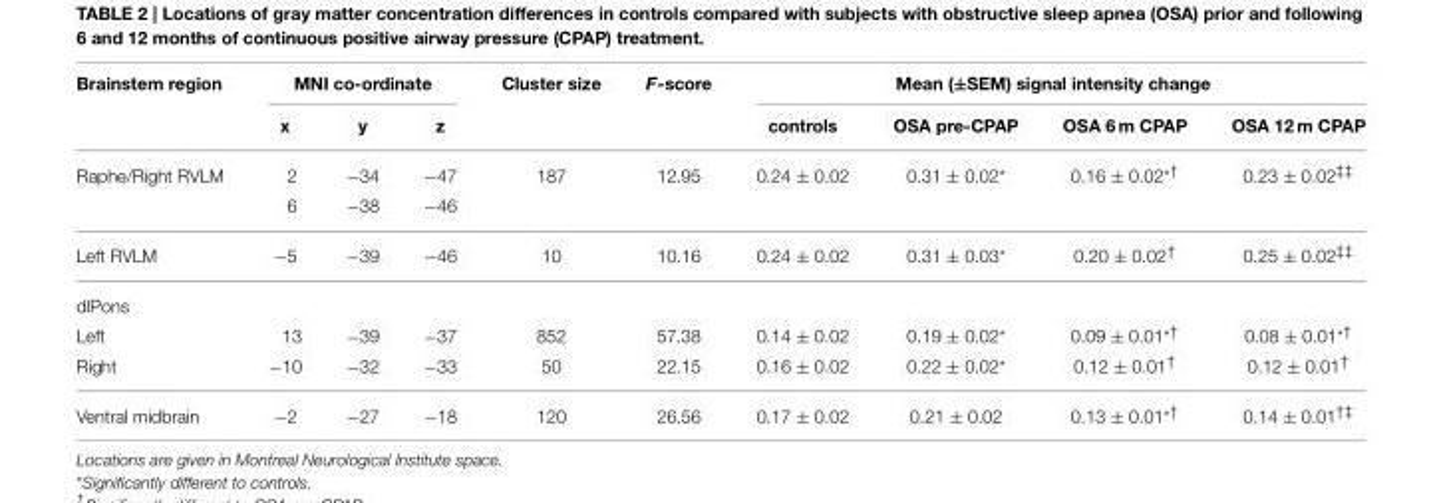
<table><thead><tr><td rowspan="2">Brainstem region</td><td colspan="3">MNI co-ordinate</td><td rowspan="2">Cluster size</td><td rowspan="2">F-score</td><td colspan="4">Mean (±SEM) signal intensity change</td></tr><tr><td>x</td><td>y</td><td>z</td><td>controls</td><td>OSA pre-CPAP</td><td>OSA 6 m CPAP</td><td>OSA 12 m CPAP</td></tr></thead><tbody><tr><td rowspan="2">Raphe/Right RVLM</td><td>2</td><td>−34</td><td>−47</td><td>187</td><td>12.95</td><td>0.24 ± 0.02</td><td>0.31 ± 0.02*</td><td>0.16 ± 0.02<sup>*†</sup></td><td>0.23 ± 0.02<sup>‡‡</sup></td></tr><tr><td>6</td><td>−38</td><td>−46</td><td></td><td></td><td></td><td></td><td></td><td></td></tr><tr><td>Left RVLM</td><td>−5</td><td>−39</td><td>−46</td><td>10</td><td>10.16</td><td>0.24 ± 0.02</td><td>0.31 ± 0.03*</td><td>0.20 ± 0.02<sup>†</sup></td><td>0.25 ± 0.02<sup>‡‡</sup></td></tr><tr><td colspan="10">dlPons</td></tr><tr><td>Left</td><td>13</td><td>−39</td><td>−37</td><td>852</td><td>57.38</td><td>0.14 ± 0.02</td><td>0.19 ± 0.02*</td><td>0.09 ± 0.01<sup>*†</sup></td><td>0.08 ± 0.01<sup>*†</sup></td></tr><tr><td>Right</td><td>−10</td><td>−32</td><td>−33</td><td>50</td><td>22.15</td><td>0.16 ± 0.02</td><td>0.22 ± 0.02*</td><td>0.12 ± 0.01<sup>†</sup></td><td>0.12 ± 0.01<sup>†</sup></td></tr><tr><td>Ventral midbrain</td><td>−2</td><td>−27</td><td>−18</td><td>120</td><td>26.56</td><td>0.17 ± 0.02</td><td>0.21 ± 0.02</td><td>0.13 ± 0.01<sup>*†</sup></td><td>0.14 ± 0.01<sup>†‡</sup></td></tr></tbody></table>